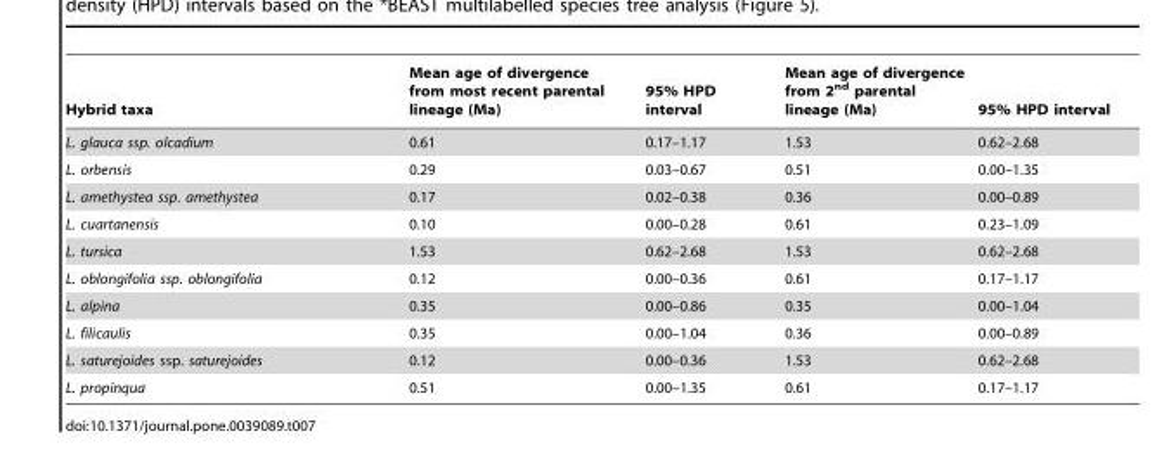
<table><thead><tr><td>Hybrid taxa</td><td>Mean age of divergence from most recent parental lineage (Ma)</td><td>95% HPD interval</td><td>Mean age of divergence from 2<sup>nd</sup> parental lineage (Ma)</td><td>95% HPD interval</td></tr></thead><tbody><tr><td>L. glauca ssp. olcadium</td><td>0.61</td><td>0.17–1.17</td><td>1.53</td><td>0.62–2.68</td></tr><tr><td>L. orbensis</td><td>0.29</td><td>0.03–0.67</td><td>0.51</td><td>0.00–1.35</td></tr><tr><td>L. amethystea ssp. amethystea</td><td>0.17</td><td>0.02–0.38</td><td>0.36</td><td>0.00–0.89</td></tr><tr><td>L. cuartanensis</td><td>0.10</td><td>0.00–0.28</td><td>0.61</td><td>0.23–1.09</td></tr><tr><td>L. tursica</td><td>1.53</td><td>0.62–2.68</td><td>1.53</td><td>0.62–2.68</td></tr><tr><td>L. oblongifolia ssp. oblongifolia</td><td>0.12</td><td>0.00–0.36</td><td>0.61</td><td>0.17–1.17</td></tr><tr><td>L. alpina</td><td>0.35</td><td>0.00–0.86</td><td>0.35</td><td>0.00–1.04</td></tr><tr><td>L. filicaulis</td><td>0.35</td><td>0.00–1.04</td><td>0.36</td><td>0.00–0.89</td></tr><tr><td>L. saturejoides ssp. saturejoides</td><td>0.12</td><td>0.00–0.36</td><td>1.53</td><td>0.62–2.68</td></tr><tr><td>L. propinqua</td><td>0.51</td><td>0.00–1.35</td><td>0.61</td><td>0.17–1.17</td></tr></tbody></table>